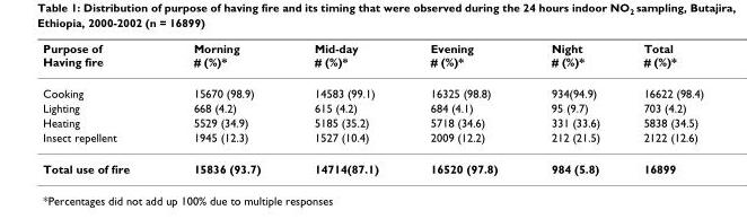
<table><thead><tr><td>Purpose of Having fire</td><td>Morning # (%)*</td><td>Mid-day # (%)*</td><td>Evening # (%)*</td><td>Night # (%)*</td><td>Total # (%)*</td></tr></thead><tbody><tr><td>Cooking</td><td>15670 (98.9)</td><td>14583 (99.1)</td><td>16325 (98.8)</td><td>934(94.9)</td><td>16622 (98.4)</td></tr><tr><td>Lighting</td><td>668 (4.2)</td><td>615 (4.2)</td><td>684 (4.1)</td><td>95 (9.7)</td><td>703 (4.2)</td></tr><tr><td>Heating</td><td>5529 (34.9)</td><td>5185 (35.2)</td><td>5718 (34.6)</td><td>331 (33.6)</td><td>5838 (34.5)</td></tr><tr><td>Insect repellent</td><td>1945 (12.3)</td><td>1527 (10.4)</td><td>2009 (12.2)</td><td>212 (21.5)</td><td>2122 (12.6)</td></tr><tr><td>Total use of fire</td><td>15836 (93.7)</td><td>14714(87.1)</td><td>16520 (97.8)</td><td>984 (5.8)</td><td>16899</td></tr></tbody></table>